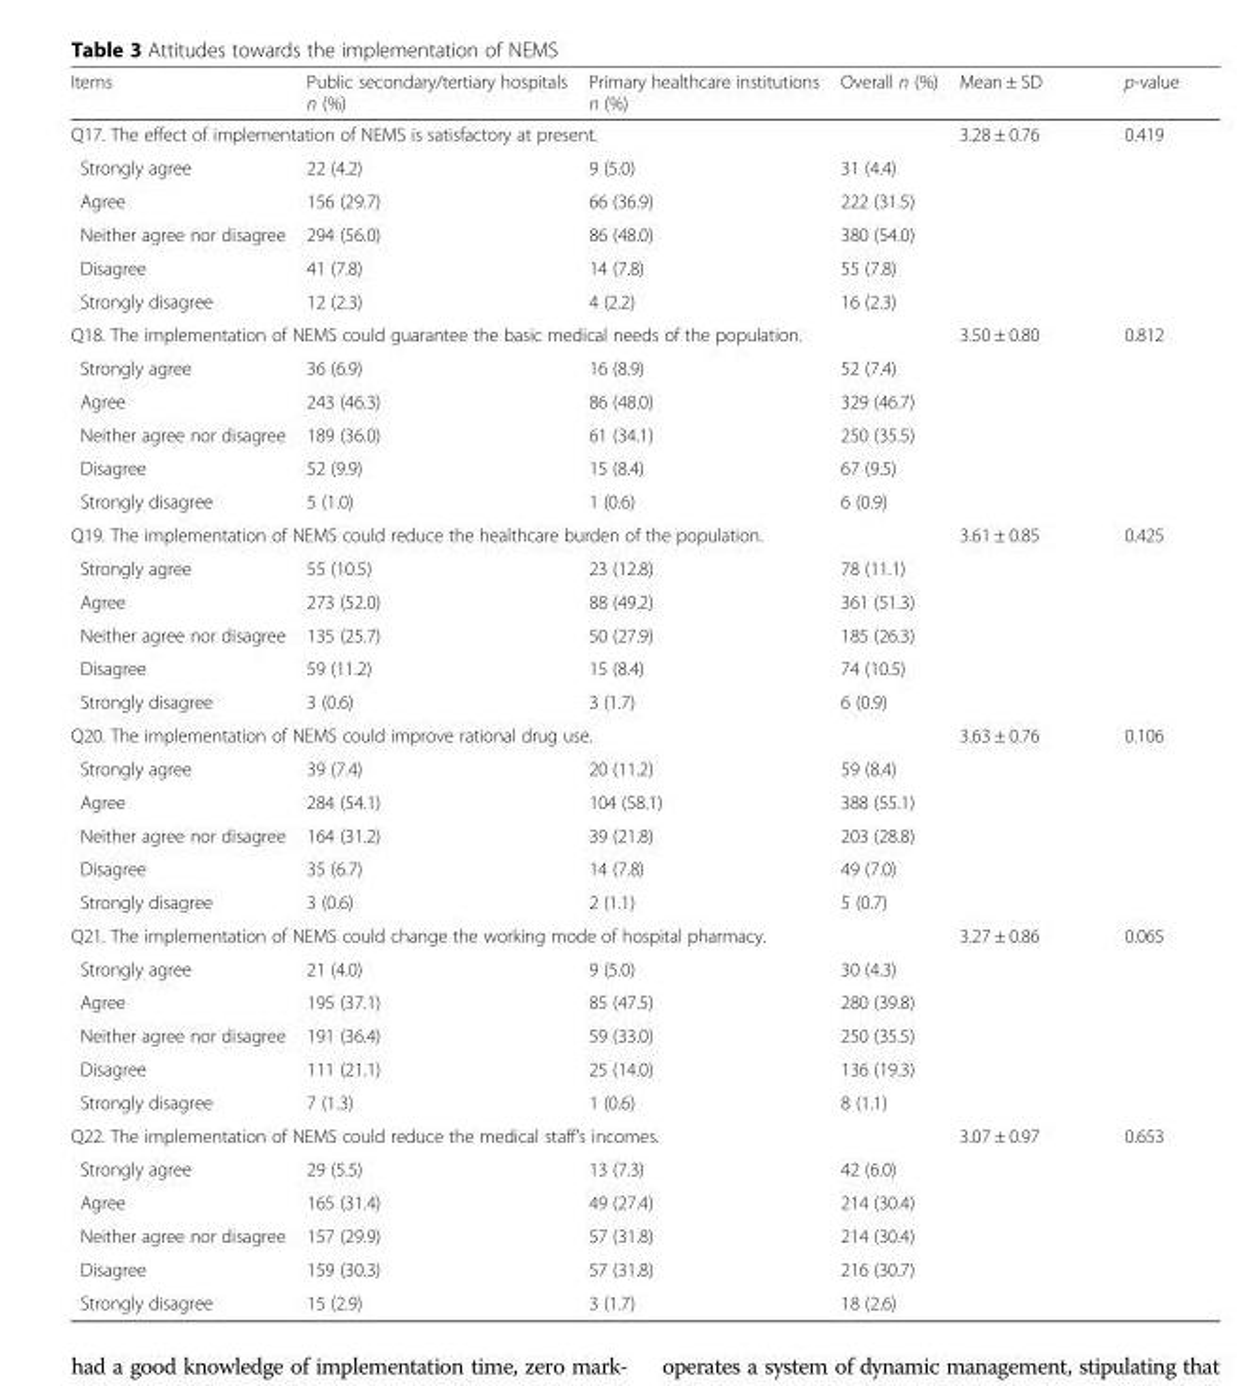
<table><thead><tr><td>Items</td><td>Public secondary/tertiary hospitals n (%)</td><td>Primary healthcare institutions n (%)</td><td>Overall n (%)</td><td>Mean ± SD</td><td>p-value</td></tr></thead><tbody><tr><td colspan="4">Q17. The effect of implementation of NEMS is satisfactory at present.</td><td>3.28 ± 0.76</td><td>0.419</td></tr><tr><td>Strongly agree</td><td>22 (4.2)</td><td>9 (5.0)</td><td>31 (4.4)</td><td></td><td></td></tr><tr><td>Agree</td><td>156 (29.7)</td><td>66 (36.9)</td><td>222 (31.5)</td><td></td><td></td></tr><tr><td>Neither agree nor disagree</td><td>294 (56.0)</td><td>86 (48.0)</td><td>380 (54.0)</td><td></td><td></td></tr><tr><td>Disagree</td><td>41 (7.8)</td><td>14 (7.8)</td><td>55 (7.8)</td><td></td><td></td></tr><tr><td>Strongly disagree</td><td>12 (2.3)</td><td>4 (2.2)</td><td>16 (2.3)</td><td></td><td></td></tr><tr><td colspan="4">Q18. The implementation of NEMS could guarantee the basic medical needs of the population.</td><td>3.50 ± 0.80</td><td>0.812</td></tr><tr><td>Strongly agree</td><td>36 (6.9)</td><td>16 (8.9)</td><td>52 (7.4)</td><td></td><td></td></tr><tr><td>Agree</td><td>243 (46.3)</td><td>86 (48.0)</td><td>329 (46.7)</td><td></td><td></td></tr><tr><td>Neither agree nor disagree</td><td>189 (36.0)</td><td>61 (34.1)</td><td>250 (35.5)</td><td></td><td></td></tr><tr><td>Disagree</td><td>52 (9.9)</td><td>15 (8.4)</td><td>67 (9.5)</td><td></td><td></td></tr><tr><td>Strongly disagree</td><td>5 (1.0)</td><td>1 (0.6)</td><td>6 (0.9)</td><td></td><td></td></tr><tr><td colspan="4">Q19. The implementation of NEMS could reduce the healthcare burden of the population.</td><td>3.61 ± 0.85</td><td>0.425</td></tr><tr><td>Strongly agree</td><td>55 (10.5)</td><td>23 (12.8)</td><td>78 (11.1)</td><td></td><td></td></tr><tr><td>Agree</td><td>273 (52.0)</td><td>88 (49.2)</td><td>361 (51.3)</td><td></td><td></td></tr><tr><td>Neither agree nor disagree</td><td>135 (25.7)</td><td>50 (27.9)</td><td>185 (26.3)</td><td></td><td></td></tr><tr><td>Disagree</td><td>59 (11.2)</td><td>15 (8.4)</td><td>74 (10.5)</td><td></td><td></td></tr><tr><td>Strongly disagree</td><td>3 (0.6)</td><td>3 (1.7)</td><td>6 (0.9)</td><td></td><td></td></tr><tr><td colspan="4">Q20. The implementation of NEMS could improve rational drug use.</td><td>3.63 ± 0.76</td><td>0.106</td></tr><tr><td>Strongly agree</td><td>39 (7.4)</td><td>20 (11.2)</td><td>59 (8.4)</td><td></td><td></td></tr><tr><td>Agree</td><td>284 (54.1)</td><td>104 (58.1)</td><td>388 (55.1)</td><td></td><td></td></tr><tr><td>Neither agree nor disagree</td><td>164 (31.2)</td><td>39 (21.8)</td><td>203 (28.8)</td><td></td><td></td></tr><tr><td>Disagree</td><td>35 (6.7)</td><td>14 (7.8)</td><td>49 (7.0)</td><td></td><td></td></tr><tr><td>Strongly disagree</td><td>3 (0.6)</td><td>2 (1.1)</td><td>5 (0.7)</td><td></td><td></td></tr><tr><td colspan="4">Q21. The implementation of NEMS could change the working mode of hospital pharmacy.</td><td>3.27 ± 0.86</td><td>0.065</td></tr><tr><td>Strongly agree</td><td>21 (4.0)</td><td>9 (5.0)</td><td>30 (4.3)</td><td></td><td></td></tr><tr><td>Agree</td><td>195 (37.1)</td><td>85 (47.5)</td><td>280 (39.8)</td><td></td><td></td></tr><tr><td>Neither agree nor disagree</td><td>191 (36.4)</td><td>59 (33.0)</td><td>250 (35.5)</td><td></td><td></td></tr><tr><td>Disagree</td><td>111 (21.1)</td><td>25 (14.0)</td><td>136 (19.3)</td><td></td><td></td></tr><tr><td>Strongly disagree</td><td>7 (1.3)</td><td>1 (0.6)</td><td>8 (1.1)</td><td></td><td></td></tr><tr><td colspan="4">Q22. The implementation of NEMS could reduce the medical staff’s incomes.</td><td>3.07 ± 0.97</td><td>0.653</td></tr><tr><td>Strongly agree</td><td>29 (5.5)</td><td>13 (7.3)</td><td>42 (6.0)</td><td></td><td></td></tr><tr><td>Agree</td><td>165 (31.4)</td><td>49 (27.4)</td><td>214 (30.4)</td><td></td><td></td></tr><tr><td>Neither agree nor disagree</td><td>157 (29.9)</td><td>57 (31.8)</td><td>214 (30.4)</td><td></td><td></td></tr><tr><td>Disagree</td><td>159 (30.3)</td><td>57 (31.8)</td><td>216 (30.7)</td><td></td><td></td></tr><tr><td>Strongly disagree</td><td>15 (2.9)</td><td>3 (1.7)</td><td>18 (2.6)</td><td></td><td></td></tr></tbody></table>